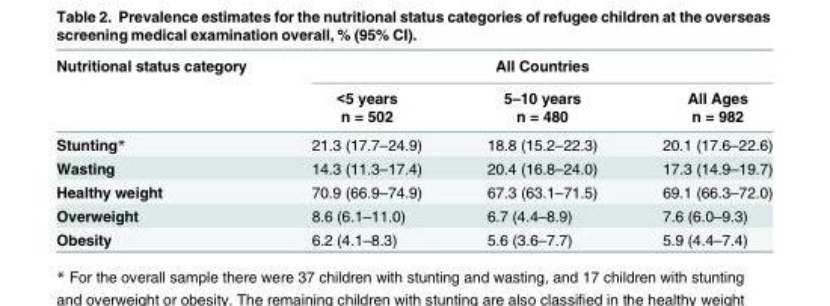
<table><thead><tr><td rowspan="3">Nutritional status category</td><td colspan="3">All Countries</td></tr><tr><td rowspan="2">&lt;5 years n = 502</td><td rowspan="2">5–10 years n = 480</td><td rowspan="2">All Ages n = 982</td></tr><tr></tr></thead><tbody><tr><td>Stunting*</td><td>21.3 (17.7–24.9)</td><td>18.8 (15.2–22.3)</td><td>20.1 (17.6–22.6)</td></tr><tr><td>Wasting</td><td>14.3 (11.3–17.4)</td><td>20.4 (16.8–24.0)</td><td>17.3 (14.9–19.7)</td></tr><tr><td>Healthy weight</td><td>70.9 (66.9–74.9)</td><td>67.3 (63.1–71.5)</td><td>69.1 (66.3–72.0)</td></tr><tr><td>Overweight</td><td>8.6 (6.1–11.0)</td><td>6.7 (4.4–8.9)</td><td>7.6 (6.0–9.3)</td></tr><tr><td>Obesity</td><td>6.2 (4.1–8.3)</td><td>5.6 (3.6–7.7)</td><td>5.9 (4.4–7.4)</td></tr></tbody></table>